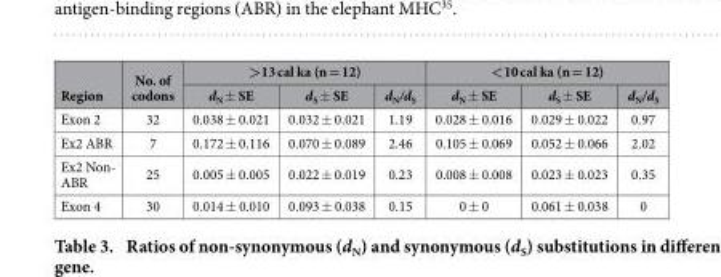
<table><thead><tr><td rowspan="2">Region</td><td rowspan="2">No. of codons</td><td colspan="3">&gt;13 cal ka (n = 12)</td><td colspan="3">&lt;10 cal ka (n = 12)</td></tr><tr><td>d<sub>N</sub> ± SE</td><td>d<sub>S</sub> ± SE</td><td>d<sub>N</sub>/d<sub>S</sub></td><td>d<sub>N</sub> ± SE</td><td>d<sub>S</sub> ± SE</td><td>d<sub>N</sub>/d<sub>S</sub></td></tr></thead><tbody><tr><td>Exon 2</td><td>32</td><td>0.038 ± 0.021</td><td>0.032 ± 0.021</td><td>1.19</td><td>0.028 ± 0.016</td><td>0.029 ± 0.022</td><td>0.97</td></tr><tr><td>Ex2 ABR</td><td>7</td><td>0.172 ± 0.116</td><td>0.070 ± 0.089</td><td>2.46</td><td>0.105 ± 0.069</td><td>0.052 ± 0.066</td><td>2.02</td></tr><tr><td>Ex2 Non- ABR</td><td>25</td><td>0.005 ± 0.005</td><td>0.022 ± 0.019</td><td>0.23</td><td>0.008 ± 0.008</td><td>0.023 ± 0.023</td><td>0.35</td></tr><tr><td>Exon 4</td><td>30</td><td>0.014 ± 0.010</td><td>0.093 ± 0.038</td><td>0.15</td><td>0 ± 0</td><td>0.061 ± 0.038</td><td>0</td></tr></tbody></table>